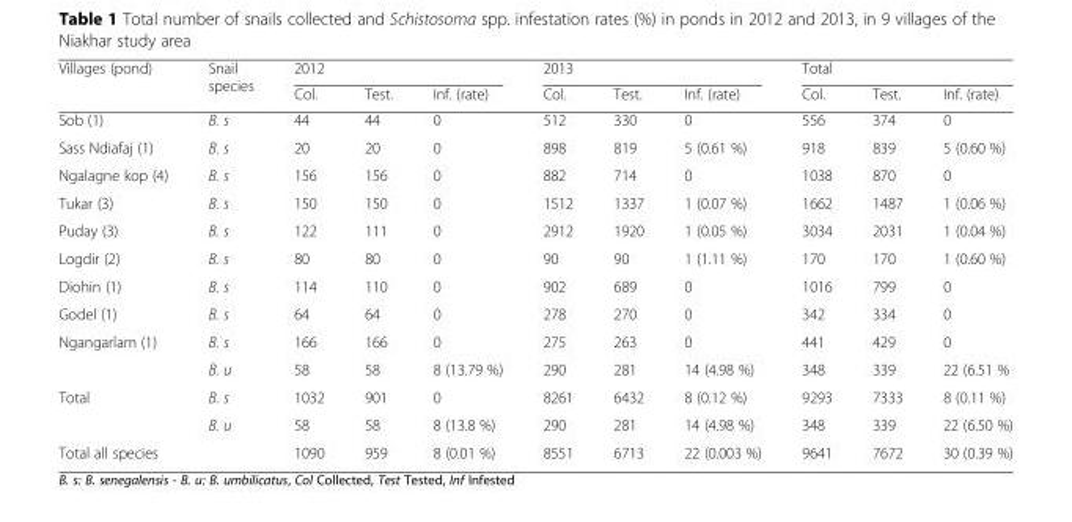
<table><thead><tr><td rowspan="2">Villages (pond)</td><td rowspan="2">Snail species</td><td colspan="3">2012</td><td colspan="3">2013</td><td colspan="3">Total</td></tr><tr><td>Col.</td><td>Test.</td><td>Inf. (rate)</td><td>Col.</td><td>Test.</td><td>Inf. (rate)</td><td>Col.</td><td>Test.</td><td>Inf. (rate)</td></tr></thead><tbody><tr><td>Sob (1)</td><td>B. s</td><td>44</td><td>44</td><td>0</td><td>512</td><td>330</td><td>0</td><td>556</td><td>374</td><td>0</td></tr><tr><td>Sass Ndiafaj (1)</td><td>B. s</td><td>20</td><td>20</td><td>0</td><td>898</td><td>819</td><td>5 (0.61 %)</td><td>918</td><td>839</td><td>5 (0.60 %)</td></tr><tr><td>Ngalagne kop (4)</td><td>B. s</td><td>156</td><td>156</td><td>0</td><td>882</td><td>714</td><td>0</td><td>1038</td><td>870</td><td>0</td></tr><tr><td>Tukar (3)</td><td>B. s</td><td>150</td><td>150</td><td>0</td><td>1512</td><td>1337</td><td>1 (0.07 %)</td><td>1662</td><td>1487</td><td>1 (0.06 %)</td></tr><tr><td>Puday (3)</td><td>B. s</td><td>122</td><td>111</td><td>0</td><td>2912</td><td>1920</td><td>1 (0.05 %)</td><td>3034</td><td>2031</td><td>1 (0.04 %)</td></tr><tr><td>Logdir (2)</td><td>B. s</td><td>80</td><td>80</td><td>0</td><td>90</td><td>90</td><td>1 (1.11 %)</td><td>170</td><td>170</td><td>1 (0.60 %)</td></tr><tr><td>Diohin (1)</td><td>B. s</td><td>114</td><td>110</td><td>0</td><td>902</td><td>689</td><td>0</td><td>1016</td><td>799</td><td>0</td></tr><tr><td>Godel (1)</td><td>B. s</td><td>64</td><td>64</td><td>0</td><td>278</td><td>270</td><td>0</td><td>342</td><td>334</td><td>0</td></tr><tr><td rowspan="2">Ngangarlam (1)</td><td>B. s</td><td>166</td><td>166</td><td>0</td><td>275</td><td>263</td><td>0</td><td>441</td><td>429</td><td>0</td></tr><tr><td>B. u</td><td>58</td><td>58</td><td>8 (13.79 %)</td><td>290</td><td>281</td><td>14 (4.98 %)</td><td>348</td><td>339</td><td>22 (6.51 %</td></tr><tr><td rowspan="2">Total</td><td>B. s</td><td>1032</td><td>901</td><td>0</td><td>8261</td><td>6432</td><td>8 (0.12 %)</td><td>9293</td><td>7333</td><td>8 (0.11 %)</td></tr><tr><td>B. u</td><td>58</td><td>58</td><td>8 (13.8 %)</td><td>290</td><td>281</td><td>14 (4.98 %)</td><td>348</td><td>339</td><td>22 (6.50 %)</td></tr><tr><td colspan="2">Total all species</td><td>1090</td><td>959</td><td>8 (0.01 %)</td><td>8551</td><td>6713</td><td>22 (0.003 %)</td><td>9641</td><td>7672</td><td>30 (0.39 %)</td></tr></tbody></table>